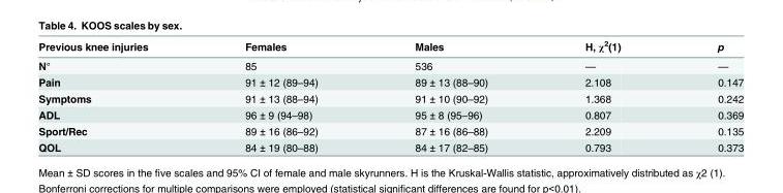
<table><thead><tr><td>Previous knee injuries</td><td>Females</td><td>Males</td><td>H, χ<sup>2</sup>(1)</td><td>p</td></tr></thead><tbody><tr><td>N°</td><td>85</td><td>536</td><td>—</td><td>—</td></tr><tr><td>Pain</td><td>91 ± 12 (89–94)</td><td>89 ± 13 (88–90)</td><td>2.108</td><td>0.147</td></tr><tr><td>Symptoms</td><td>91 ± 13 (88–94)</td><td>91 ± 10 (90–92)</td><td>1.368</td><td>0.242</td></tr><tr><td>ADL</td><td>96 ± 9 (94–98)</td><td>95 ± 8 (95–96)</td><td>0.807</td><td>0.369</td></tr><tr><td>Sport/Rec</td><td>89 ± 16 (86–92)</td><td>87 ± 16 (86–88)</td><td>2.209</td><td>0.135</td></tr><tr><td>QOL</td><td>84 ± 19 (80–88)</td><td>84 ± 17 (82–85)</td><td>0.793</td><td>0.373</td></tr></tbody></table>